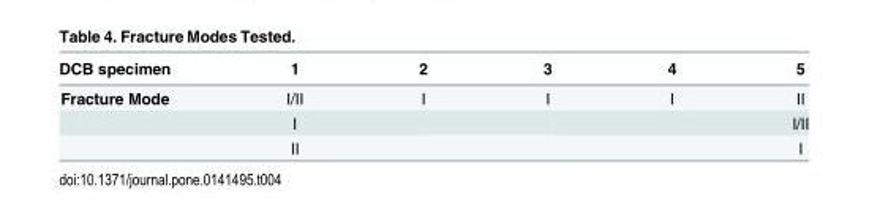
<table><thead><tr><td>DCB specimen</td><td>1</td><td>2</td><td>3</td><td>4</td><td>5</td></tr></thead><tbody><tr><td rowspan="3">Fracture Mode</td><td>I/II</td><td>I</td><td>I</td><td>I</td><td>II</td></tr><tr><td>I</td><td></td><td></td><td></td><td>I/II</td></tr><tr><td>II</td><td></td><td></td><td></td><td>I</td></tr></tbody></table>